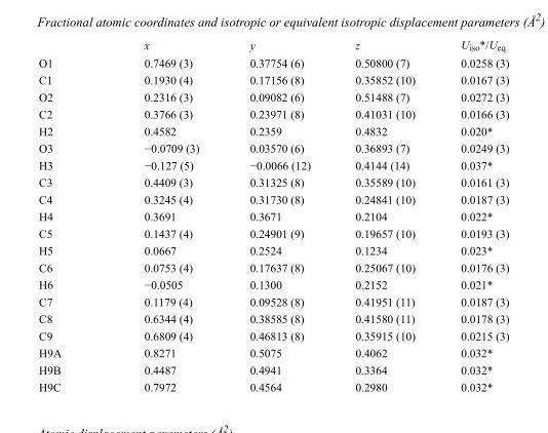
<table><thead><tr><td></td><td>x</td><td>y</td><td>z</td><td>U<sub>iso</sub>*/U<sub>eq</sub></td></tr></thead><tbody><tr><td>O1</td><td>0.7469 (3)</td><td>0.37754 (6)</td><td>0.50800 (7)</td><td>0.0258 (3)</td></tr><tr><td>C1</td><td>0.1930 (4)</td><td>0.17156 (8)</td><td>0.35852 (10)</td><td>0.0167 (3)</td></tr><tr><td>O2</td><td>0.2316 (3)</td><td>0.09082 (6)</td><td>0.51488 (7)</td><td>0.0272 (3)</td></tr><tr><td>C2</td><td>0.3766 (3)</td><td>0.23971 (8)</td><td>0.41031 (10)</td><td>0.0166 (3)</td></tr><tr><td>H2</td><td>0.4582</td><td>0.2359</td><td>0.4832</td><td>0.020*</td></tr><tr><td>O3</td><td>−0.0709 (3)</td><td>0.03570 (6)</td><td>0.36893 (7)</td><td>0.0249 (3)</td></tr><tr><td>H3</td><td>−0.127 (5)</td><td>−0.0066 (12)</td><td>0.4144 (14)</td><td>0.037*</td></tr><tr><td>C3</td><td>0.4409 (3)</td><td>0.31325 (8)</td><td>0.35589 (10)</td><td>0.0161 (3)</td></tr><tr><td>C4</td><td>0.3245 (4)</td><td>0.31730 (8)</td><td>0.24841 (10)</td><td>0.0187 (3)</td></tr><tr><td>H4</td><td>0.3691</td><td>0.3671</td><td>0.2104</td><td>0.022*</td></tr><tr><td>C5</td><td>0.1437 (4)</td><td>0.24901 (9)</td><td>0.19657 (10)</td><td>0.0193 (3)</td></tr><tr><td>H5</td><td>0.0667</td><td>0.2524</td><td>0.1234</td><td>0.023*</td></tr><tr><td>C6</td><td>0.0753 (4)</td><td>0.17637 (8)</td><td>0.25067 (10)</td><td>0.0176 (3)</td></tr><tr><td>H6</td><td>−0.0505</td><td>0.1300</td><td>0.2152</td><td>0.021*</td></tr><tr><td>C7</td><td>0.1179 (4)</td><td>0.09528 (8)</td><td>0.41951 (11)</td><td>0.0187 (3)</td></tr><tr><td>C8</td><td>0.6344 (4)</td><td>0.38585 (8)</td><td>0.41580 (11)</td><td>0.0178 (3)</td></tr><tr><td>C9</td><td>0.6809 (4)</td><td>0.46813 (8)</td><td>0.35915 (10)</td><td>0.0215 (3)</td></tr><tr><td>H9A</td><td>0.8271</td><td>0.5075</td><td>0.4062</td><td>0.032*</td></tr><tr><td>H9B</td><td>0.4487</td><td>0.4941</td><td>0.3364</td><td>0.032*</td></tr><tr><td>H9C</td><td>0.7972</td><td>0.4564</td><td>0.2980</td><td>0.032*</td></tr></tbody></table>